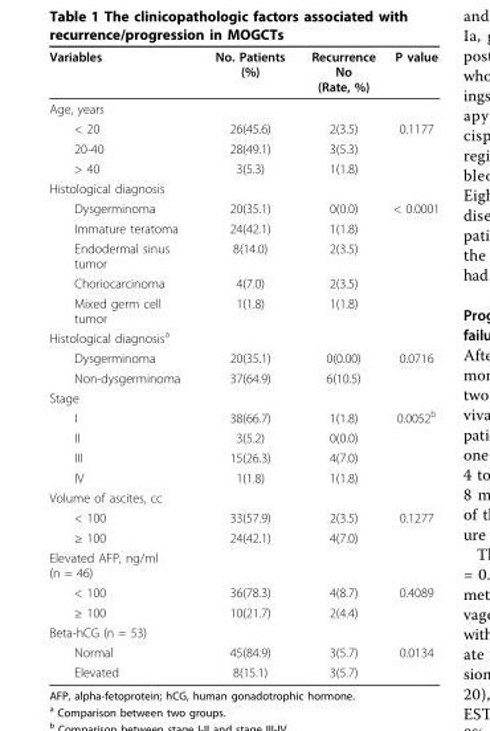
<table><thead><tr><td>Variables</td><td>No. Patients (%)</td><td>Recurrence No (Rate, %)</td><td>P value</td></tr></thead><tbody><tr><td colspan="4">Age, years</td></tr><tr><td>&lt; 20</td><td>26(45.6)</td><td>2(3.5)</td><td>0.1177</td></tr><tr><td>20-40</td><td>28(49.1)</td><td>3(5.3)</td><td></td></tr><tr><td>&gt; 40</td><td>3(5.3)</td><td>1(1.8)</td><td></td></tr><tr><td colspan="4">Histological diagnosis</td></tr><tr><td>Dysgerminoma</td><td>20(35.1)</td><td>0(0.0)</td><td>&lt; 0.0001</td></tr><tr><td>Immature teratoma</td><td>24(42.1)</td><td>1(1.8)</td><td></td></tr><tr><td>Endodermal sinus tumor</td><td>8(14.0)</td><td>2(3.5)</td><td></td></tr><tr><td>Choriocarcinoma</td><td>4(7.0)</td><td>2(3.5)</td><td></td></tr><tr><td>Mixed germ cell tumor</td><td>1(1.8)</td><td>1(1.8)</td><td></td></tr><tr><td colspan="4">Histological diagnosis<sup>a</sup></td></tr><tr><td>Dysgerminoma</td><td>20(35.1)</td><td>0(0.00)</td><td>0.0716</td></tr><tr><td>Non-dysgerminoma</td><td>37(64.9)</td><td>6(10.5)</td><td></td></tr><tr><td colspan="4">Stage</td></tr><tr><td>I</td><td>38(66.7)</td><td>1(1.8)</td><td>0.0052<sup>b</sup></td></tr><tr><td>II</td><td>3(5.2)</td><td>0(0.0)</td><td></td></tr><tr><td>III</td><td>15(26.3)</td><td>4(7.0)</td><td></td></tr><tr><td>IV</td><td>1(1.8)</td><td>1(1.8)</td><td></td></tr><tr><td colspan="4">Volume of ascites, cc</td></tr><tr><td>&lt; 100</td><td>33(57.9)</td><td>2(3.5)</td><td>0.1277</td></tr><tr><td>≥ 100</td><td>24(42.1)</td><td>4(7.0)</td><td></td></tr><tr><td colspan="4">Elevated AFP, ng/ml (n = 46)</td></tr><tr><td>&lt; 100</td><td>36(78.3)</td><td>4(8.7)</td><td>0.4089</td></tr><tr><td>≥ 100</td><td>10(21.7)</td><td>2(4.4)</td><td></td></tr><tr><td colspan="4">Beta-hCG (n = 53)</td></tr><tr><td>Normal</td><td>45(84.9)</td><td>3(5.7)</td><td>0.0134</td></tr><tr><td>Elevated</td><td>8(15.1)</td><td>3(5.7)</td><td></td></tr></tbody></table>